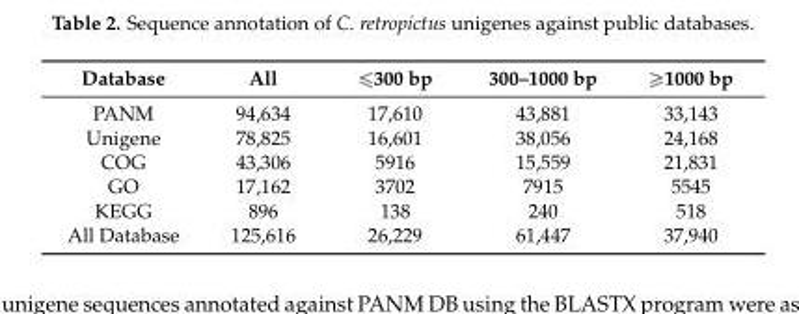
<table><thead><tr><td>Database</td><td>All</td><td>≤300 bp</td><td>300–1000 bp</td><td>≥1000 bp</td></tr></thead><tbody><tr><td>PANM</td><td>94,634</td><td>17,610</td><td>43,881</td><td>33,143</td></tr><tr><td>Unigene</td><td>78,825</td><td>16,601</td><td>38,056</td><td>24,168</td></tr><tr><td>COG</td><td>43,306</td><td>5916</td><td>15,559</td><td>21,831</td></tr><tr><td>GO</td><td>17,162</td><td>3702</td><td>7915</td><td>5545</td></tr><tr><td>KEGG</td><td>896</td><td>138</td><td>240</td><td>518</td></tr><tr><td>All Database</td><td>125,616</td><td>26,229</td><td>61,447</td><td>37,940</td></tr></tbody></table>